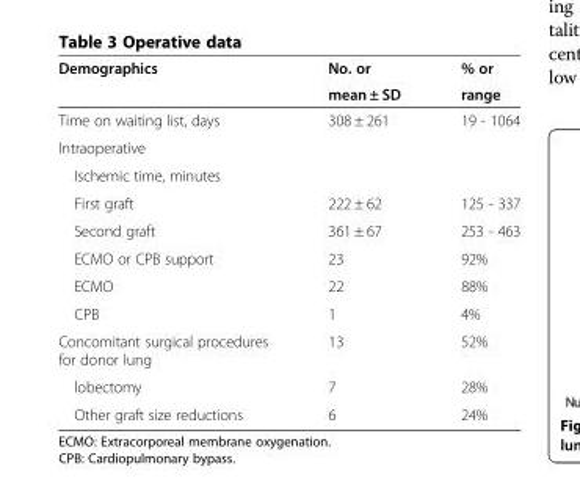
<table><thead><tr><td rowspan="2">Demographics</td><td rowspan="2">No. or mean ± SD</td><td rowspan="2">% or range</td></tr><tr></tr></thead><tbody><tr><td>Time on waiting list, days</td><td>308 ± 261</td><td>19 - 1064</td></tr><tr><td colspan="3">Intraoperative</td></tr><tr><td colspan="3">Ischemic time, minutes</td></tr><tr><td>First graft</td><td>222 ± 62</td><td>125 - 337</td></tr><tr><td>Second graft</td><td>361 ± 67</td><td>253 - 463</td></tr><tr><td>ECMO or CPB support</td><td>23</td><td>92%</td></tr><tr><td>ECMO</td><td>22</td><td>88%</td></tr><tr><td>CPB</td><td>1</td><td>4%</td></tr><tr><td>Concomitant surgical procedures for donor lung</td><td>13</td><td>52%</td></tr><tr><td>lobectomy</td><td>7</td><td>28%</td></tr><tr><td>Other graft size reductions</td><td>6</td><td>24%</td></tr></tbody></table>